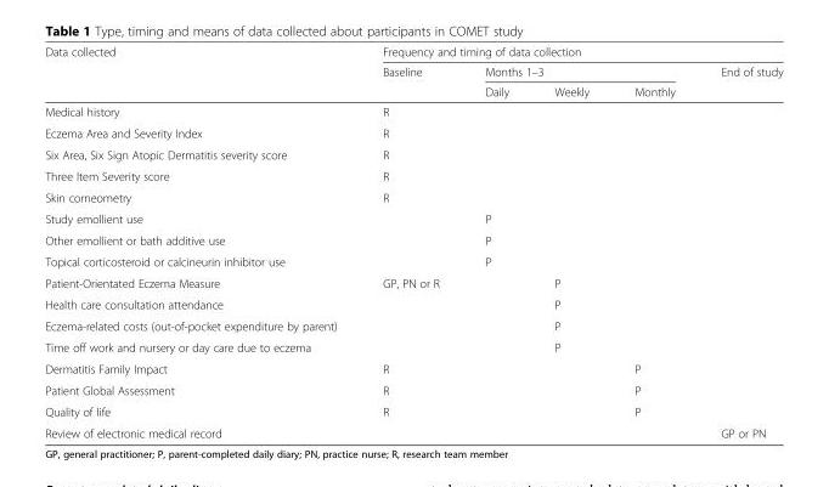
<table><thead><tr><td rowspan="3">Data collected</td><td colspan="5">Frequency and timing of data collection</td></tr><tr><td rowspan="2">Baseline</td><td colspan="3">Months 1–3</td><td rowspan="2">End of study</td></tr><tr><td>Daily</td><td>Weekly</td><td>Monthly</td></tr></thead><tbody><tr><td>Medical history</td><td>R</td><td></td><td></td><td></td><td></td></tr><tr><td>Eczema Area and Severity Index</td><td>R</td><td></td><td></td><td></td><td></td></tr><tr><td>Six Area, Six Sign Atopic Dermatitis severity score</td><td>R</td><td></td><td></td><td></td><td></td></tr><tr><td>Three Item Severity score</td><td>R</td><td></td><td></td><td></td><td></td></tr><tr><td>Skin corneometry</td><td>R</td><td></td><td></td><td></td><td></td></tr><tr><td>Study emollient use</td><td></td><td>P</td><td></td><td></td><td></td></tr><tr><td>Other emollient or bath additive use</td><td></td><td>P</td><td></td><td></td><td></td></tr><tr><td>Topical corticosteroid or calcineurin inhibitor use</td><td></td><td>P</td><td></td><td></td><td></td></tr><tr><td>Patient-Orientated Eczema Measure</td><td>GP, PN or R</td><td></td><td>P</td><td></td><td></td></tr><tr><td>Health care consultation attendance</td><td></td><td></td><td>P</td><td></td><td></td></tr><tr><td>Eczema-related costs (out-of-pocket expenditure by parent)</td><td></td><td></td><td>P</td><td></td><td></td></tr><tr><td>Time off work and nursery or day care due to eczema</td><td></td><td></td><td>P</td><td></td><td></td></tr><tr><td>Dermatitis Family Impact</td><td>R</td><td></td><td></td><td>P</td><td></td></tr><tr><td>Patient Global Assessment</td><td>R</td><td></td><td></td><td>P</td><td></td></tr><tr><td>Quality of life</td><td>R</td><td></td><td></td><td>P</td><td></td></tr><tr><td>Review of electronic medical record</td><td></td><td></td><td></td><td></td><td>GP or PN</td></tr></tbody></table>